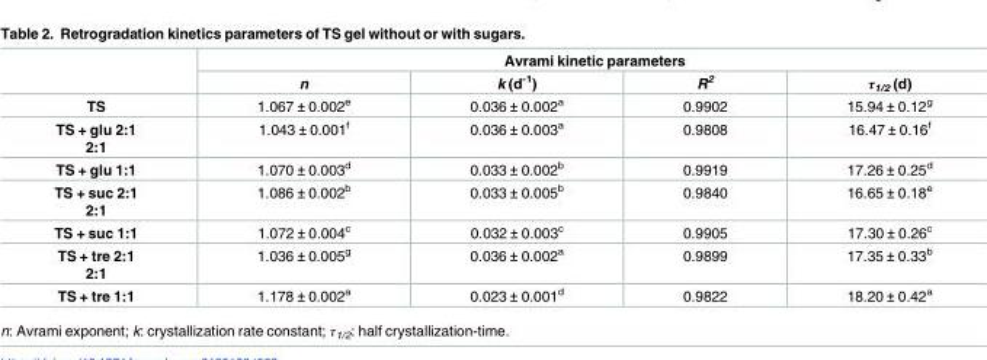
<table><thead><tr><td rowspan="2"></td><td colspan="4">Avrami kinetic parameters</td></tr><tr><td>n</td><td>k (d<sup>-1</sup>)</td><td>R<sup>2</sup></td><td>τ<sub>1/2</sub> (d)</td></tr></thead><tbody><tr><td>TS</td><td>1.067 ± 0.002<sup>e</sup></td><td>0.036 ± 0.002<sup>a</sup></td><td>0.9902</td><td>15.94 ± 0.12<sup>g</sup></td></tr><tr><td>TS + glu 2:1 2:1</td><td>1.043 ± 0.001<sup>f</sup></td><td>0.036 ± 0.003<sup>a</sup></td><td>0.9808</td><td>16.47 ± 0.16<sup>f</sup></td></tr><tr><td>TS + glu 1:1</td><td>1.070 ± 0.003<sup>d</sup></td><td>0.033 ± 0.002<sup>b</sup></td><td>0.9919</td><td>17.26 ± 0.25<sup>d</sup></td></tr><tr><td>TS + suc 2:1 2:1</td><td>1.086 ± 0.002<sup>b</sup></td><td>0.033 ± 0.005<sup>b</sup></td><td>0.9840</td><td>16.65 ± 0.18<sup>e</sup></td></tr><tr><td>TS + suc 1:1</td><td>1.072 ± 0.004<sup>c</sup></td><td>0.032 ± 0.003<sup>c</sup></td><td>0.9905</td><td>17.30 ± 0.26<sup>c</sup></td></tr><tr><td>TS + tre 2:1 2:1</td><td>1.036 ± 0.005<sup>g</sup></td><td>0.036 ± 0.002<sup>a</sup></td><td>0.9899</td><td>17.35 ± 0.33<sup>b</sup></td></tr><tr><td>TS + tre 1:1</td><td>1.178 ± 0.002<sup>a</sup></td><td>0.023 ± 0.001<sup>d</sup></td><td>0.9822</td><td>18.20 ± 0.42<sup>a</sup></td></tr></tbody></table>